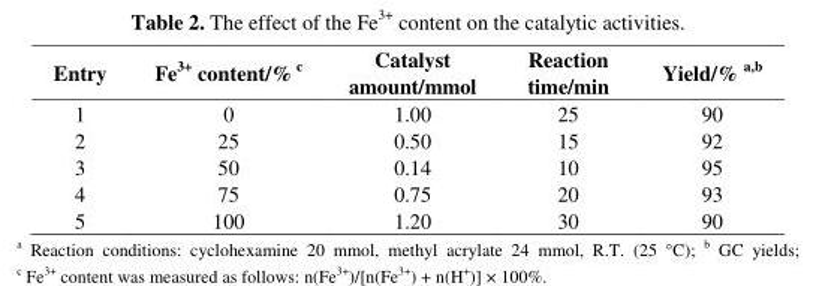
<table><thead><tr><td>Entry</td><td>Fe<sup>3+</sup> content/% c</td><td>Catalyst amount/mmol</td><td>Reaction time/min</td><td>Yield/% a,b</td></tr></thead><tbody><tr><td>1</td><td>0</td><td>1.00</td><td>25</td><td>90</td></tr><tr><td>2</td><td>25</td><td>0.50</td><td>15</td><td>92</td></tr><tr><td>3</td><td>50</td><td>0.14</td><td>10</td><td>95</td></tr><tr><td>4</td><td>75</td><td>0.75</td><td>20</td><td>93</td></tr><tr><td>5</td><td>100</td><td>1.20</td><td>30</td><td>90</td></tr></tbody></table>